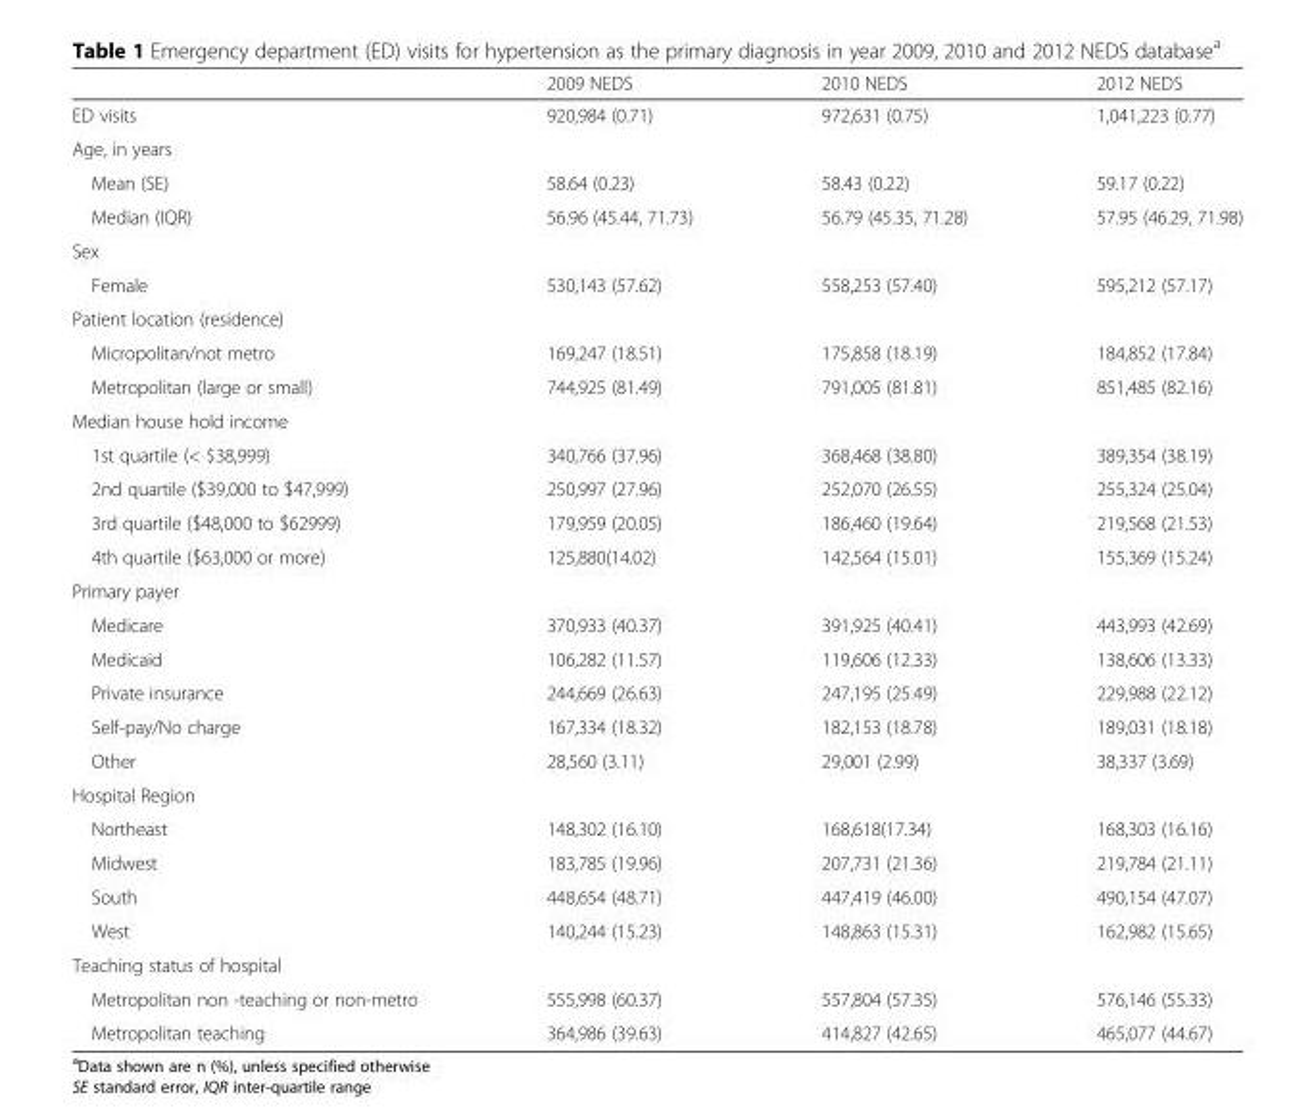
<table><thead><tr><td></td><td>2009 NEDS</td><td>2010 NEDS</td><td>2012 NEDS</td></tr></thead><tbody><tr><td>ED visits</td><td>920,984 (0.71)</td><td>972,631 (0.75)</td><td>1,041,223 (0.77)</td></tr><tr><td colspan="4">Age, in years</td></tr><tr><td>Mean (SE)</td><td>58.64 (0.23)</td><td>58.43 (0.22)</td><td>59.17 (0.22)</td></tr><tr><td>Median (IQR)</td><td>56.96 (45.44, 71.73)</td><td>56.79 (45.35, 71.28)</td><td>57.95 (46.29, 71.98)</td></tr><tr><td colspan="4">Sex</td></tr><tr><td>Female</td><td>530,143 (57.62)</td><td>558,253 (57.40)</td><td>595,212 (57.17)</td></tr><tr><td colspan="4">Patient location (residence)</td></tr><tr><td>Micropolitan/not metro</td><td>169,247 (18.51)</td><td>175,858 (18.19)</td><td>184,852 (17.84)</td></tr><tr><td>Metropolitan (large or small)</td><td>744,925 (81.49)</td><td>791,005 (81.81)</td><td>851,485 (82.16)</td></tr><tr><td colspan="4">Median house hold income</td></tr><tr><td>1st quartile (&lt; $38,999)</td><td>340,766 (37.96)</td><td>368,468 (38.80)</td><td>389,354 (38.19)</td></tr><tr><td>2nd quartile ($39,000 to $47,999)</td><td>250,997 (27.96)</td><td>252,070 (26.55)</td><td>255,324 (25.04)</td></tr><tr><td>3rd quartile ($48,000 to $62999)</td><td>179,959 (20.05)</td><td>186,460 (19.64)</td><td>219,568 (21.53)</td></tr><tr><td>4th quartile ($63,000 or more)</td><td>125,880(14.02)</td><td>142,564 (15.01)</td><td>155,369 (15.24)</td></tr><tr><td colspan="4">Primary payer</td></tr><tr><td>Medicare</td><td>370,933 (40.37)</td><td>391,925 (40.41)</td><td>443,993 (42.69)</td></tr><tr><td>Medicaid</td><td>106,282 (11.57)</td><td>119,606 (12.33)</td><td>138,606 (13.33)</td></tr><tr><td>Private insurance</td><td>244,669 (26.63)</td><td>247,195 (25.49)</td><td>229,988 (22.12)</td></tr><tr><td>Self-pay/No charge</td><td>167,334 (18.32)</td><td>182,153 (18.78)</td><td>189,031 (18.18)</td></tr><tr><td>Other</td><td>28,560 (3.11)</td><td>29,001 (2.99)</td><td>38,337 (3.69)</td></tr><tr><td colspan="4">Hospital Region</td></tr><tr><td>Northeast</td><td>148,302 (16.10)</td><td>168,618(17.34)</td><td>168,303 (16.16)</td></tr><tr><td>Midwest</td><td>183,785 (19.96)</td><td>207,731 (21.36)</td><td>219,784 (21.11)</td></tr><tr><td>South</td><td>448,654 (48.71)</td><td>447,419 (46.00)</td><td>490,154 (47.07)</td></tr><tr><td>West</td><td>140,244 (15.23)</td><td>148,863 (15.31)</td><td>162,982 (15.65)</td></tr><tr><td colspan="4">Teaching status of hospital</td></tr><tr><td>Metropolitan non -teaching or non-metro</td><td>555,998 (60.37)</td><td>557,804 (57.35)</td><td>576,146 (55.33)</td></tr><tr><td>Metropolitan teaching</td><td>364,986 (39.63)</td><td>414,827 (42.65)</td><td>465,077 (44.67)</td></tr></tbody></table>